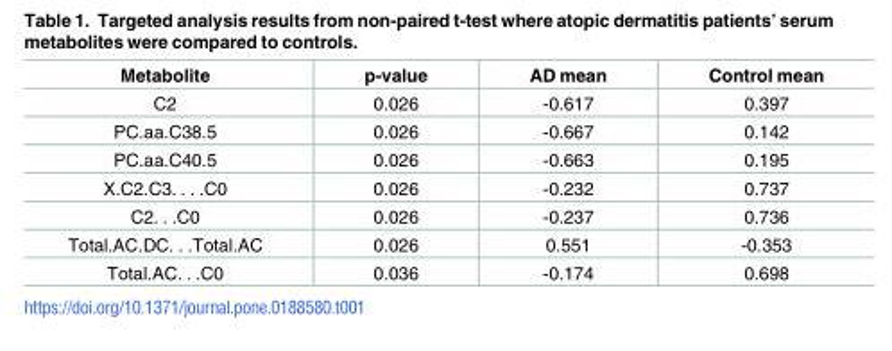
<table><thead><tr><td>Metabolite</td><td>p-value</td><td>AD mean</td><td>Control mean</td></tr></thead><tbody><tr><td>C2</td><td>0.026</td><td>-0.617</td><td>0.397</td></tr><tr><td>PC.aa.C38.5</td><td>0.026</td><td>-0.667</td><td>0.142</td></tr><tr><td>PC.aa.C40.5</td><td>0.026</td><td>-0.663</td><td>0.195</td></tr><tr><td>X.C2.C3. . . .C0</td><td>0.026</td><td>-0.232</td><td>0.737</td></tr><tr><td>C2. . .C0</td><td>0.026</td><td>-0.237</td><td>0.736</td></tr><tr><td>Total.AC.DC. . .Total.AC</td><td>0.026</td><td>0.551</td><td>-0.353</td></tr><tr><td>Total.AC. . .C0</td><td>0.036</td><td>-0.174</td><td>0.698</td></tr></tbody></table>